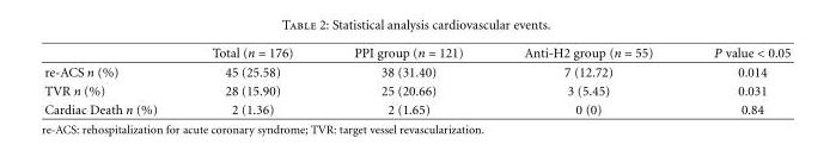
<table><thead><tr><td></td><td>Total (n = 176)</td><td>PPI group (n = 121)</td><td>Anti-H2 group (n = 55)</td><td>P value &lt; 0.05</td></tr></thead><tbody><tr><td>re-ACS n (%)</td><td>45 (25.58)</td><td>38 (31.40)</td><td>7 (12.72)</td><td>0.014</td></tr><tr><td>TVR n (%)</td><td>28 (15.90)</td><td>25 (20.66)</td><td>3 (5.45)</td><td>0.031</td></tr><tr><td>Cardiac Death n (%)</td><td>2 (1.36)</td><td>2 (1.65)</td><td>0 (0)</td><td>0.84</td></tr></tbody></table>